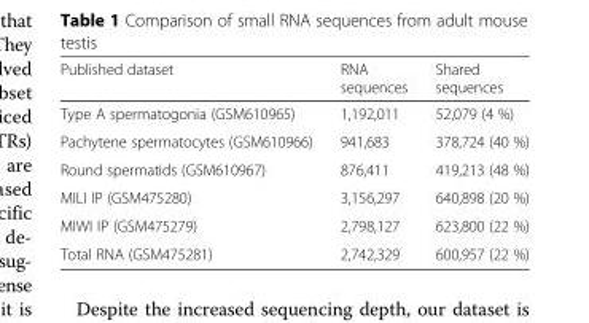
<table><thead><tr><td>Published dataset</td><td>RNA sequences</td><td>Shared sequences</td></tr></thead><tbody><tr><td>Type A spermatogonia (GSM610965)</td><td>1,192,011</td><td>52,079 (4 %)</td></tr><tr><td>Pachytene spermatocytes (GSM610966)</td><td>941,683</td><td>378,724 (40 %)</td></tr><tr><td>Round spermatids (GSM610967)</td><td>876,411</td><td>419,213 (48 %)</td></tr><tr><td>MILI IP (GSM475280)</td><td>3,156,297</td><td>640,898 (20 %)</td></tr><tr><td>MIWI IP (GSM475279)</td><td>2,798,127</td><td>623,800 (22 %)</td></tr><tr><td>Total RNA (GSM475281)</td><td>2,742,329</td><td>600,957 (22 %)</td></tr></tbody></table>